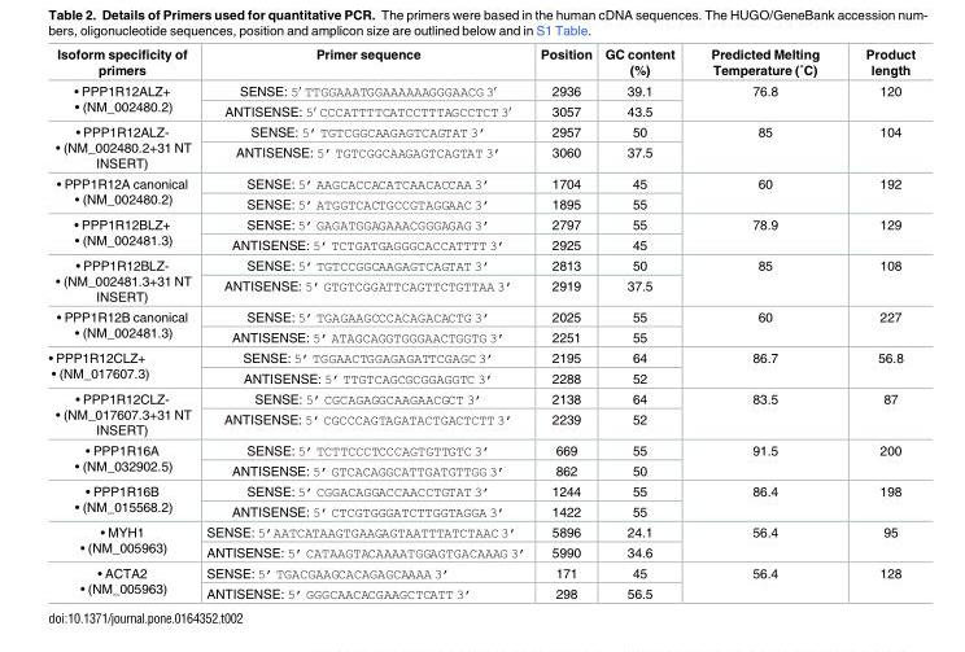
<table><thead><tr><td>Isoform specificity of primers</td><td>Primer sequence</td><td>Position</td><td>GC content (%)</td><td>Predicted Melting Temperature (˚C)</td><td>Product length</td></tr></thead><tbody><tr><td rowspan="2">• PPP1R12ALZ+ • (NM_002480.2)</td><td>SENSE: 5′ TTGGAAATGGAAAAAAGGGAACG 3′</td><td>2936</td><td>39.1</td><td rowspan="2">76.8</td><td rowspan="2">120</td></tr><tr><td>ANTISENSE: 5′ CCCATTTTCATCCTTTAGCCTCT 3′</td><td>3057</td><td>43.5</td></tr><tr><td rowspan="2">• PPP1R12ALZ- • (NM_002480.2+31 NT INSERT)</td><td>SENSE: 5’ TGTCGGCAAGAGTCAGTAT 3’</td><td>2957</td><td>50</td><td rowspan="2">85</td><td rowspan="2">104</td></tr><tr><td>ANTISENSE: 5’ TGTCGGCAAGAGTCAGTAT 3’</td><td>3060</td><td>37.5</td></tr><tr><td rowspan="2">• PPP1R12A canonical • (NM_002480.2)</td><td>SENSE: 5’ AAGCACCACATCAACACCAA 3’</td><td>1704</td><td>45</td><td rowspan="2">60</td><td rowspan="2">192</td></tr><tr><td>SENSE: 5’ ATGGTCACTGCCGTAGGAAC 3’</td><td>1895</td><td>55</td></tr><tr><td rowspan="2">• PPP1R12BLZ+ • (NM_002481.3)</td><td>SENSE: 5’ GAGATGGAGAAACGGGAGAG 3’</td><td>2797</td><td>55</td><td rowspan="2">78.9</td><td rowspan="2">129</td></tr><tr><td>ANTISENSE: 5’ TCTGATGAGGGCACCATTTT 3’</td><td>2925</td><td>45</td></tr><tr><td rowspan="2">• PPP1R12BLZ- • (NM_002481.3+31 NT INSERT)</td><td>SENSE: 5’ TGTCCGGCAAGAGTCAGTAT 3’</td><td>2813</td><td>50</td><td rowspan="2">85</td><td rowspan="2">108</td></tr><tr><td>ANTISENSE: 5’ GTGTCGGATTCAGTTCTGTTAA 3’</td><td>2919</td><td>37.5</td></tr><tr><td rowspan="2">• PPP1R12B canonical • (NM_002481.3)</td><td>SENSE: 5’ TGAGAAGCCCACAGACACTG 3’</td><td>2025</td><td>55</td><td rowspan="2">60</td><td rowspan="2">227</td></tr><tr><td>ANTISENSE: 5’ ATAGCAGGTGGGAACTGGTG 3’</td><td>2251</td><td>55</td></tr><tr><td rowspan="2">• PPP1R12CLZ+ • (NM_017607.3)</td><td>SENSE: 5’ TGGAACTGGAGAGATTCGAGC 3’</td><td>2195</td><td>64</td><td rowspan="2">86.7</td><td rowspan="2">56.8</td></tr><tr><td>ANTISENSE: 5’ TTGTCAGCGCGGAGGTC 3’</td><td>2288</td><td>52</td></tr><tr><td rowspan="2">• PPP1R12CLZ- • (NM_017607.3+31 NT INSERT)</td><td>SENSE: 5’ CGCAGAGGCAAGAACGCT 3’</td><td>2138</td><td>64</td><td rowspan="2">83.5</td><td rowspan="2">87</td></tr><tr><td>ANTISENSE: 5’ CGCCCAGTAGATACTGACTCTT 3’</td><td>2239</td><td>52</td></tr><tr><td rowspan="2">• PPP1R16A • (NM_032902.5)</td><td>SENSE: 5’ TCTTCCCTCCCAGTGTTGTC 3’</td><td>669</td><td>55</td><td rowspan="2">91.5</td><td rowspan="2">200</td></tr><tr><td>ANTISENSE: 5’ GTCACAGGCATTGATGTTGG 3’</td><td>862</td><td>50</td></tr><tr><td rowspan="2">• PPP1R16B • (NM_015568.2)</td><td>SENSE: 5’ CGGACAGGACCAACCTGTAT 3’</td><td>1244</td><td>55</td><td rowspan="2">86.4</td><td rowspan="2">198</td></tr><tr><td>ANTISENSE: 5’ CTCGTGGGATCTTGGTAGGA 3’</td><td>1422</td><td>55</td></tr><tr><td rowspan="2">• MYH1 • (NM_005963)</td><td>SENSE: 5’AATCATAAGTGAAGAGTAATTTATCTAAC 3’</td><td>5896</td><td>24.1</td><td rowspan="2">56.4</td><td rowspan="2">95</td></tr><tr><td>ANTISENSE: 5’ CATAAGTACAAAATGGAGTGACAAAG 3’</td><td>5990</td><td>34.6</td></tr><tr><td rowspan="2">• ACTA2 • (NM_005963)</td><td>SENSE: 5’ TGACGAAGCACAGAGCAAAA 3’</td><td>171</td><td>45</td><td rowspan="2">56.4</td><td rowspan="2">128</td></tr><tr><td>ANTISENSE: 5’ GGGCAACACGAAGCTCATT 3’</td><td>298</td><td>56.5</td></tr></tbody></table>